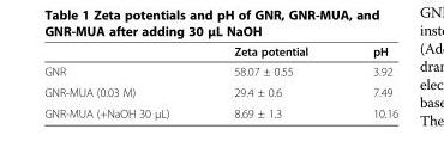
<table><thead><tr><td></td><td>Zeta potential</td><td>pH</td></tr></thead><tbody><tr><td>GNR</td><td>58.07 ± 0.55</td><td>3.92</td></tr><tr><td>GNR-MUA (0.03 M)</td><td>29.4 ± 0.6</td><td>7.49</td></tr><tr><td>GNR-MUA (+NaOH 30 μL)</td><td>8.69 ± 1.3</td><td>10.16</td></tr></tbody></table>